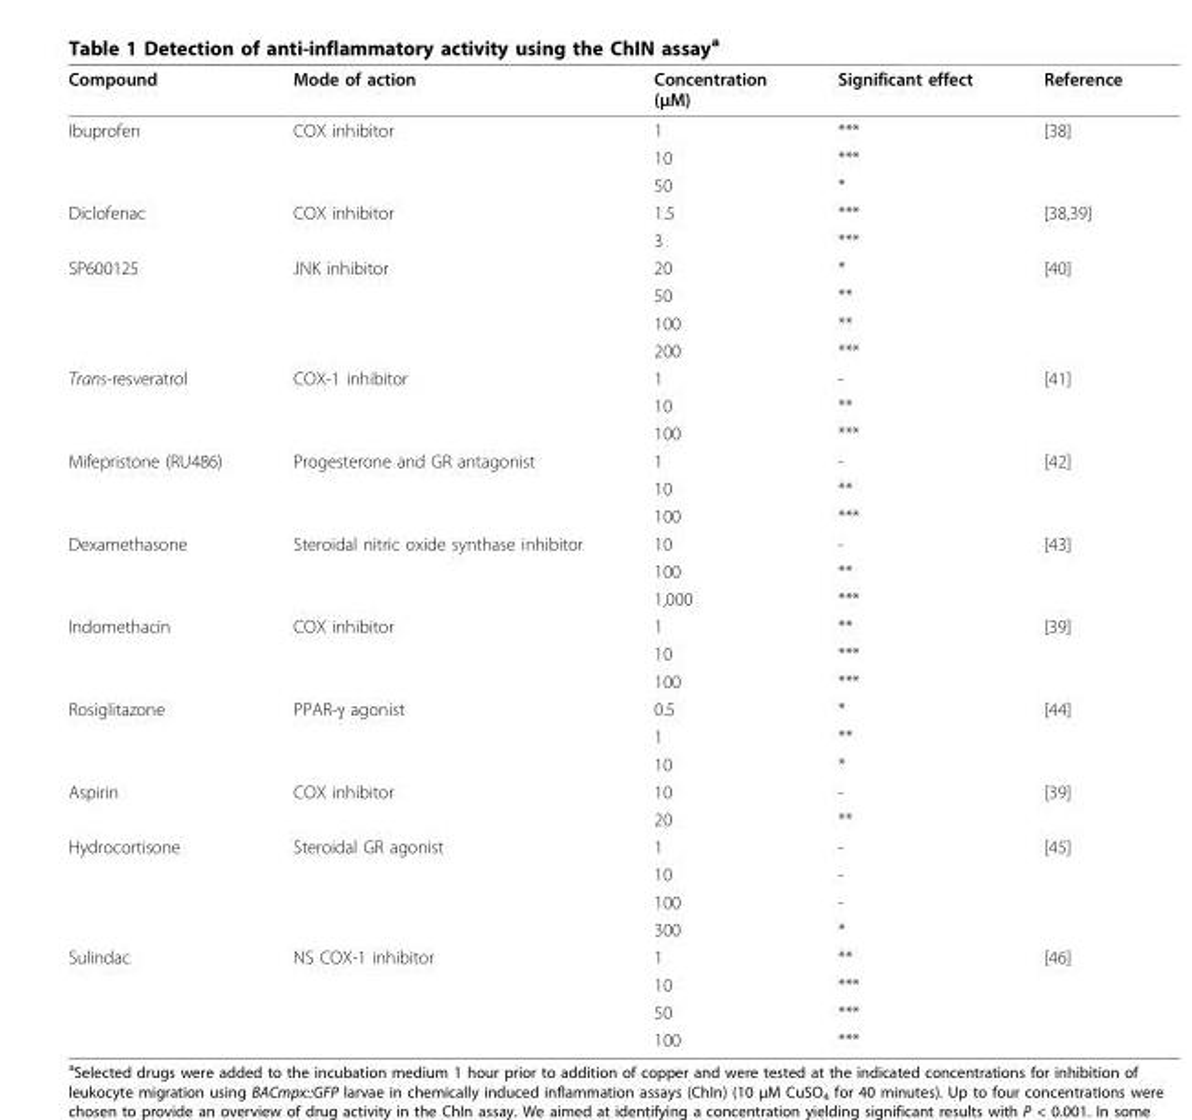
<table><thead><tr><td>Compound</td><td>Mode of action</td><td>Concentration (μM)</td><td>Significant effect</td><td>Reference</td></tr></thead><tbody><tr><td rowspan="3">Ibuprofen</td><td>COX inhibitor</td><td>1</td><td>***</td><td>[38]</td></tr><tr><td></td><td>10</td><td>***</td><td></td></tr><tr><td></td><td>50</td><td>*</td><td></td></tr><tr><td rowspan="2">Diclofenac</td><td>COX inhibitor</td><td>1.5</td><td>***</td><td>[38,39]</td></tr><tr><td></td><td>3</td><td>***</td><td></td></tr><tr><td rowspan="4">SP600125</td><td>JNK inhibitor</td><td>20</td><td>*</td><td>[40]</td></tr><tr><td></td><td>50</td><td>**</td><td></td></tr><tr><td></td><td>100</td><td>**</td><td></td></tr><tr><td></td><td>200</td><td>***</td><td></td></tr><tr><td rowspan="3">Trans-resveratrol</td><td>COX-1 inhibitor</td><td>1</td><td>-</td><td>[41]</td></tr><tr><td></td><td>10</td><td>**</td><td></td></tr><tr><td></td><td>100</td><td>***</td><td></td></tr><tr><td rowspan="3">Mifepristone (RU486)</td><td>Progesterone and GR antagonist</td><td>1</td><td>-</td><td>[42]</td></tr><tr><td></td><td>10</td><td>**</td><td></td></tr><tr><td></td><td>100</td><td>***</td><td></td></tr><tr><td rowspan="3">Dexamethasone</td><td>Steroidal nitric oxide synthase inhibitor</td><td>10</td><td>-</td><td>[43]</td></tr><tr><td></td><td>100</td><td>**</td><td></td></tr><tr><td></td><td>1,000</td><td>***</td><td></td></tr><tr><td rowspan="3">Indomethacin</td><td>COX inhibitor</td><td>1</td><td>**</td><td>[39]</td></tr><tr><td></td><td>10</td><td>***</td><td></td></tr><tr><td></td><td>100</td><td>***</td><td></td></tr><tr><td rowspan="3">Rosiglitazone</td><td>PPAR-γ agonist</td><td>0.5</td><td>*</td><td>[44]</td></tr><tr><td></td><td>1</td><td>**</td><td></td></tr><tr><td></td><td>10</td><td>*</td><td></td></tr><tr><td rowspan="2">Aspirin</td><td>COX inhibitor</td><td>10</td><td>-</td><td>[39]</td></tr><tr><td></td><td>20</td><td>**</td><td></td></tr><tr><td rowspan="4">Hydrocortisone</td><td>Steroidal GR agonist</td><td>1</td><td>-</td><td>[45]</td></tr><tr><td></td><td>10</td><td>-</td><td></td></tr><tr><td></td><td>100</td><td>-</td><td></td></tr><tr><td></td><td>300</td><td>*</td><td></td></tr><tr><td rowspan="4">Sulindac</td><td>NS COX-1 inhibitor</td><td>1</td><td>**</td><td>[46]</td></tr><tr><td></td><td>10</td><td>***</td><td></td></tr><tr><td></td><td>50</td><td>***</td><td></td></tr><tr><td></td><td>100</td><td>***</td><td></td></tr></tbody></table>